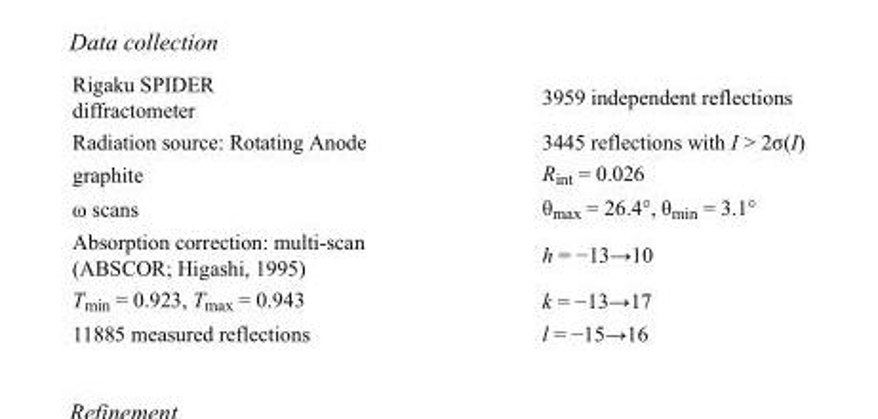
<table><tbody><tr><td>Rigaku SPIDER diffractometer</td><td>3959 independent reflections</td></tr><tr><td>Radiation source: Rotating Anode</td><td>3445 reflections with I &gt; 2σ(I)</td></tr><tr><td>graphite</td><td>R<sub>int</sub> = 0.026</td></tr><tr><td>ω scans</td><td>θ<sub>max</sub> = 26.4°, θ<sub>min</sub> = 3.1°</td></tr><tr><td>Absorption correction: multi-scan (ABSCOR; Higashi, 1995)</td><td>h = −13→10</td></tr><tr><td>T<sub>min</sub> = 0.923, T<sub>max</sub> = 0.943</td><td>k = −13→17</td></tr><tr><td>11885 measured reflections</td><td>l = −15→16</td></tr></tbody></table>